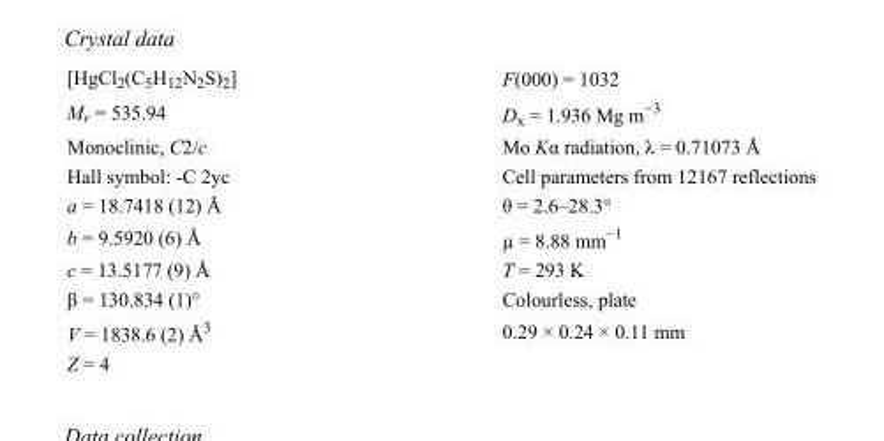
<table><tbody><tr><td>[HgCl<sub>2</sub>(C<sub>5</sub>H<sub>12</sub>N<sub>2</sub>S)<sub>2</sub>]</td><td>F(000) = 1032</td></tr><tr><td>M<sub>r</sub> = 535.94</td><td>D<sub>x</sub> = 1.936 Mg m<sup>−3</sup></td></tr><tr><td>Monoclinic, C2/c</td><td>Mo Kα radiation, λ = 0.71073 Å</td></tr><tr><td>Hall symbol: -C 2yc</td><td>Cell parameters from 12167 reflections</td></tr><tr><td>a = 18.7418 (12) Å</td><td>θ = 2.6–28.3°</td></tr><tr><td>b = 9.5920 (6) Å</td><td>µ = 8.88 mm<sup>−1</sup></td></tr><tr><td>c = 13.5177 (9) Å</td><td>T = 293 K</td></tr><tr><td>β = 130.834 (1)°</td><td>Colourless, plate</td></tr><tr><td>V = 1838.6 (2) Å<sup>3</sup></td><td>0.29 × 0.24 × 0.11 mm</td></tr><tr><td>Z = 4</td><td></td></tr></tbody></table>